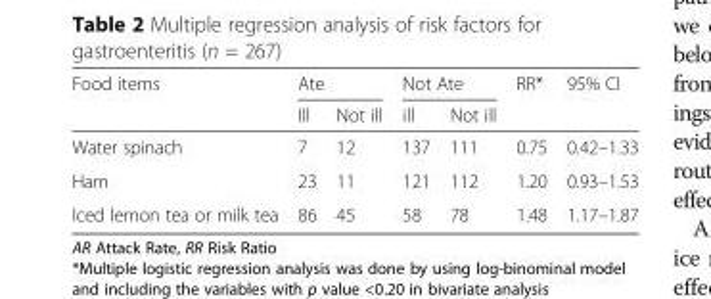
<table><thead><tr><td rowspan="2">Food items</td><td colspan="2">Ate</td><td colspan="2">Not Ate</td><td rowspan="2">RR*</td><td rowspan="2">95% CI</td></tr><tr><td>Ill</td><td>Not ill</td><td>ill</td><td>Not ill</td></tr></thead><tbody><tr><td>Water spinach</td><td>7</td><td>12</td><td>137</td><td>111</td><td>0.75</td><td>0.42–1.33</td></tr><tr><td>Ham</td><td>23</td><td>11</td><td>121</td><td>112</td><td>1.20</td><td>0.93–1.53</td></tr><tr><td>Iced lemon tea or milk tea</td><td>86</td><td>45</td><td>58</td><td>78</td><td>1.48</td><td>1.17–1.87</td></tr></tbody></table>